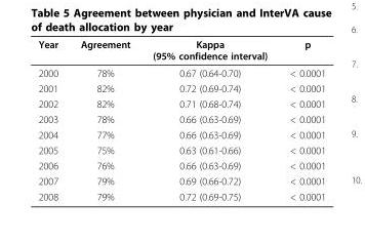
<table><thead><tr><td>Year</td><td>Agreement</td><td>Kappa (95% confidence interval)</td><td>p</td></tr></thead><tbody><tr><td>2000</td><td>78%</td><td>0.67 (0.64-0.70)</td><td>&lt; 0.0001</td></tr><tr><td>2001</td><td>82%</td><td>0.72 (0.69-0.74)</td><td>&lt; 0.0001</td></tr><tr><td>2002</td><td>82%</td><td>0.71 (0.68-0.74)</td><td>&lt; 0.0001</td></tr><tr><td>2003</td><td>78%</td><td>0.66 (0.63-0.69)</td><td>&lt; 0.0001</td></tr><tr><td>2004</td><td>77%</td><td>0.66 (0.63-0.69)</td><td>&lt; 0.0001</td></tr><tr><td>2005</td><td>75%</td><td>0.63 (0.61-0.66)</td><td>&lt; 0.0001</td></tr><tr><td>2006</td><td>76%</td><td>0.66 (0.63-0.69)</td><td>&lt; 0.0001</td></tr><tr><td>2007</td><td>79%</td><td>0.69 (0.66-0.72)</td><td>&lt; 0.0001</td></tr><tr><td>2008</td><td>79%</td><td>0.72 (0.69-0.75)</td><td>&lt; 0.0001</td></tr></tbody></table>